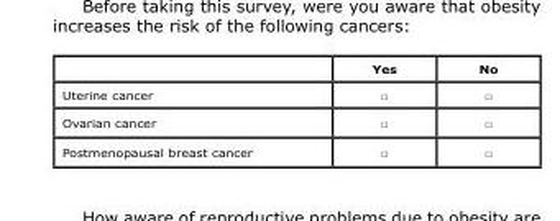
<table><thead><tr><td></td><td>Yes</td><td>No</td></tr></thead><tbody><tr><td>Uterine cancer</td><td>□</td><td>□</td></tr><tr><td>Ovarian cancer</td><td>□</td><td>□</td></tr><tr><td>Postmenopausal breast cancer</td><td>□</td><td>□</td></tr></tbody></table>